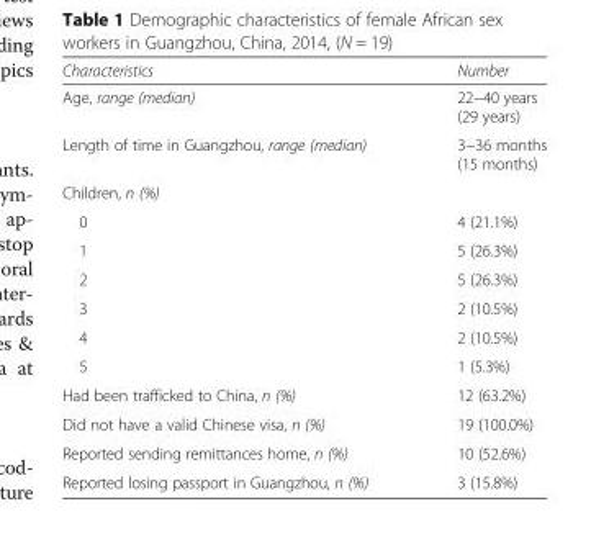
<table><thead><tr><td>Characteristics</td><td>Number</td></tr></thead><tbody><tr><td>Age, range (median)</td><td>22−40 years (29 years)</td></tr><tr><td>Length of time in Guangzhou, range (median)</td><td>3−36 months (15 months)</td></tr><tr><td colspan="2">Children, n (%)</td></tr><tr><td>0</td><td>4 (21.1%)</td></tr><tr><td>1</td><td>5 (26.3%)</td></tr><tr><td>2</td><td>5 (26.3%)</td></tr><tr><td>3</td><td>2 (10.5%)</td></tr><tr><td>4</td><td>2 (10.5%)</td></tr><tr><td>5</td><td>1 (5.3%)</td></tr><tr><td>Had been trafficked to China, n (%)</td><td>12 (63.2%)</td></tr><tr><td>Did not have a valid Chinese visa, n (%)</td><td>19 (100.0%)</td></tr><tr><td>Reported sending remittances home, n (%)</td><td>10 (52.6%)</td></tr><tr><td>Reported losing passport in Guangzhou, n (%)</td><td>3 (15.8%)</td></tr></tbody></table>